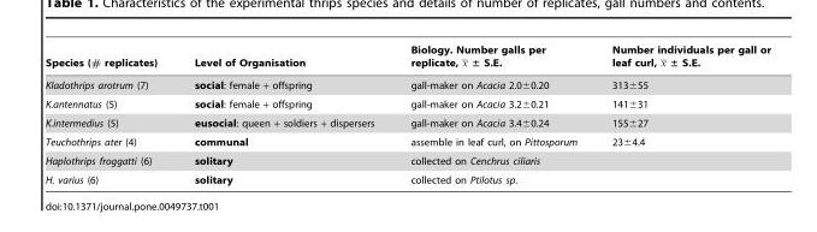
<table><thead><tr><td>Species (# replicates)</td><td>Level of Organisation</td><td>Biology. Number galls per replicate, x ± S.E.</td><td>Number individuals per gall or leaf curl, x ± S.E.</td></tr></thead><tbody><tr><td>Kladothrips arotrum (7)</td><td>social: female + offspring</td><td>gall-maker on Acacia 2.0±0.20</td><td>313±55</td></tr><tr><td>K.antennatus (5)</td><td>social: female + offspring</td><td>gall-maker on Acacia 3.2±0.21</td><td>141±31</td></tr><tr><td>K.intermedius (5)</td><td>eusocial: queen + soldiers + dispersers</td><td>gall-maker on Acacia 3.4±0.24</td><td>155±27</td></tr><tr><td>Teuchothrips ater (4)</td><td>communal</td><td>assemble in leaf curl, on Pittosporum</td><td>23±4.4</td></tr><tr><td>Haplothrips froggatti (6)</td><td>solitary</td><td>collected on Cenchrus ciliaris</td><td></td></tr><tr><td>H. varius (6)</td><td>solitary</td><td>collected on Ptilotus sp.</td><td></td></tr></tbody></table>